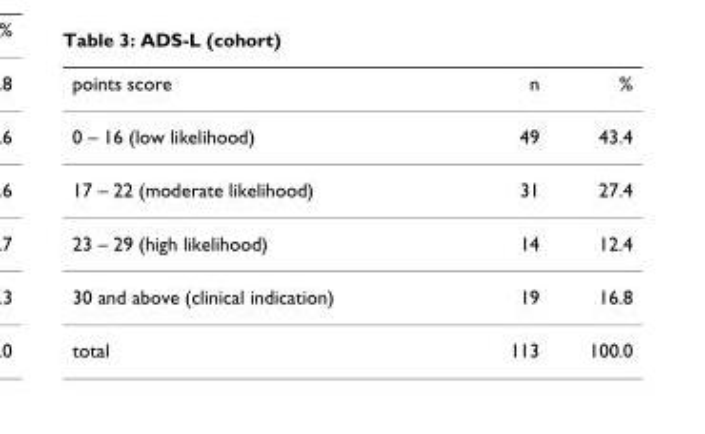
<table><thead><tr><td>points score</td><td>n</td><td>%</td></tr></thead><tbody><tr><td>0 – 16 (low likelihood)</td><td>49</td><td>43.4</td></tr><tr><td>17 – 22 (moderate likelihood)</td><td>31</td><td>27.4</td></tr><tr><td>23 – 29 (high likelihood)</td><td>14</td><td>12.4</td></tr><tr><td>30 and above (clinical indication)</td><td>19</td><td>16.8</td></tr><tr><td>total</td><td>113</td><td>100.0</td></tr></tbody></table>